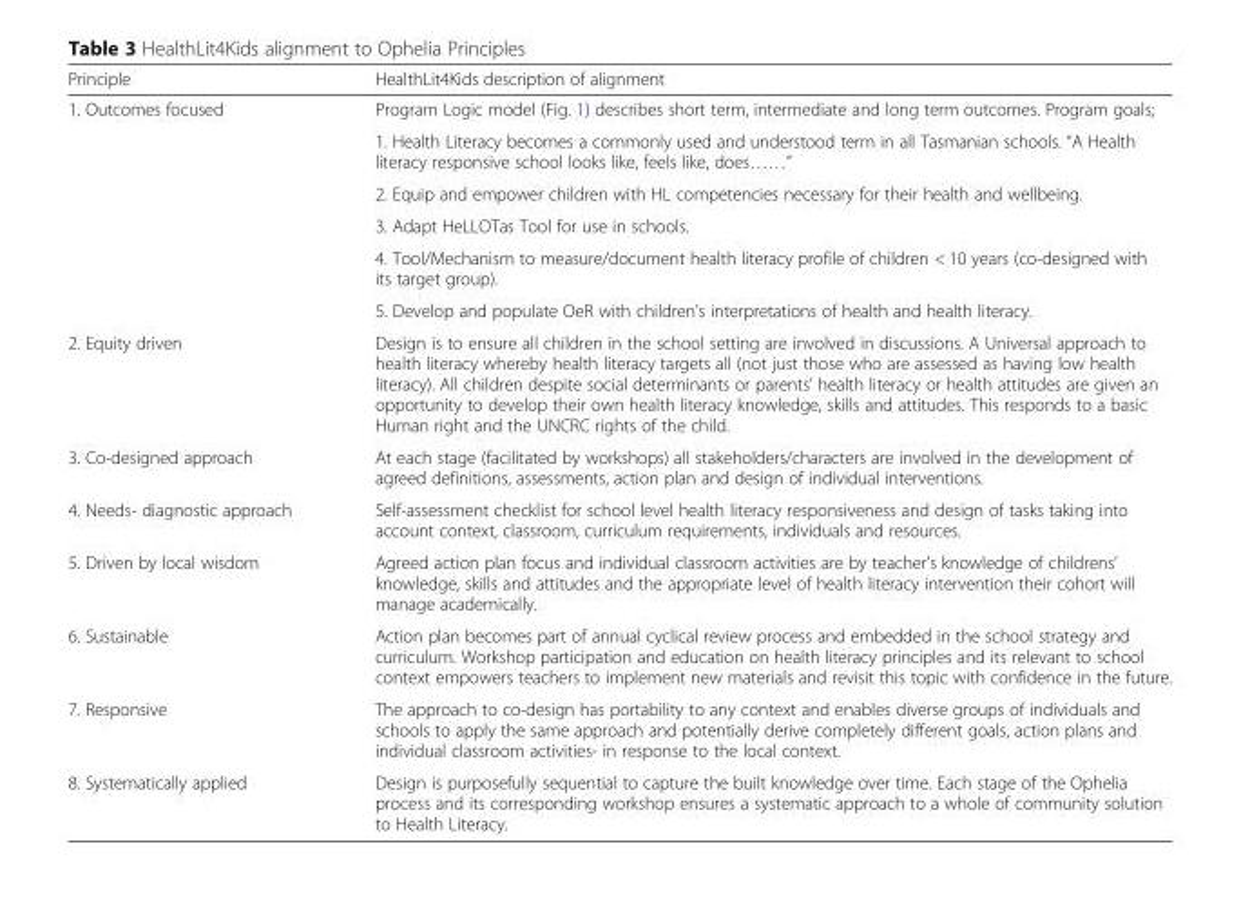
<table><thead><tr><td>Principle</td><td>HealthLit4Kids description of alignment</td></tr></thead><tbody><tr><td rowspan="6">1. Outcomes focused</td><td>Program Logic model (Fig. 1) describes short term, intermediate and long term outcomes. Program goals;</td></tr><tr><td>1. Health Literacy becomes a commonly used and understood term in all Tasmanian schools. “A Health literacy responsive school looks like, feels like, does……”</td></tr><tr><td>2. Equip and empower children with HL competencies necessary for their health and wellbeing.</td></tr><tr><td>3. Adapt HeLLOTas Tool for use in schools.</td></tr><tr><td>4. Tool/Mechanism to measure/document health literacy profile of children &lt; 10 years (co-designed with its target group).</td></tr><tr><td>5. Develop and populate OeR with children’s interpretations of health and health literacy.</td></tr><tr><td>2. Equity driven</td><td>Design is to ensure all children in the school setting are involved in discussions. A Universal approach to health literacy whereby health literacy targets all (not just those who are assessed as having low health literacy). All children despite social determinants or parents’ health literacy or health attitudes are given an opportunity to develop their own health literacy knowledge, skills and attitudes. This responds to a basic Human right and the UNCRC rights of the child.</td></tr><tr><td>3. Co-designed approach</td><td>At each stage (facilitated by workshops) all stakeholders/characters are involved in the development of agreed definitions, assessments, action plan and design of individual interventions.</td></tr><tr><td>4. Needs- diagnostic approach</td><td>Self-assessment checklist for school level health literacy responsiveness and design of tasks taking into account context, classroom, curriculum requirements, individuals and resources.</td></tr><tr><td>5. Driven by local wisdom</td><td>Agreed action plan focus and individual classroom activities are by teacher’s knowledge of childrens’ knowledge, skills and attitudes and the appropriate level of health literacy intervention their cohort will manage academically.</td></tr><tr><td>6. Sustainable</td><td>Action plan becomes part of annual cyclical review process and embedded in the school strategy and curriculum. Workshop participation and education on health literacy principles and its relevant to school context empowers teachers to implement new materials and revisit this topic with confidence in the future.</td></tr><tr><td>7. Responsive</td><td>The approach to co-design has portability to any context and enables diverse groups of individuals and schools to apply the same approach and potentially derive completely different goals, action plans and individual classroom activities- in response to the local context.</td></tr><tr><td>8. Systematically applied</td><td>Design is purposefully sequential to capture the built knowledge over time. Each stage of the Ophelia process and its corresponding workshop ensures a systematic approach to a whole of community solution to Health Literacy.</td></tr></tbody></table>